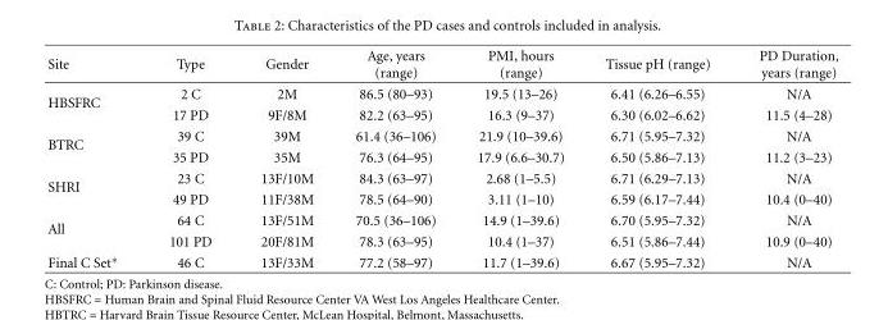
<table><thead><tr><td>Site</td><td>Type</td><td>Gender</td><td>Age, years (range)</td><td>PMI, hours (range)</td><td>Tissue pH (range)</td><td>PD Duration, years (range)</td></tr></thead><tbody><tr><td rowspan="2">HBSFRC</td><td>2 C</td><td>2M</td><td>86.5 (80–93)</td><td>19.5 (13–26)</td><td>6.41 (6.26–6.55)</td><td>N/A</td></tr><tr><td>17 PD</td><td>9F/8M</td><td>82.2 (63–95)</td><td>16.3 (9–37)</td><td>6.30 (6.02–6.62)</td><td>11.5 (4–28)</td></tr><tr><td rowspan="2">BTRC</td><td>39 C</td><td>39M</td><td>61.4 (36–106)</td><td>21.9 (10–39.6)</td><td>6.71 (5.95–7.32)</td><td>N/A</td></tr><tr><td>35 PD</td><td>35M</td><td>76.3 (64–95)</td><td>17.9 (6.6–30.7)</td><td>6.50 (5.86–7.13)</td><td>11.2 (3–23)</td></tr><tr><td rowspan="2">SHRI</td><td>23 C</td><td>13F/10M</td><td>84.3 (63–97)</td><td>2.68 (1–5.5)</td><td>6.71 (6.29–7.13)</td><td>N/A</td></tr><tr><td>49 PD</td><td>11F/38M</td><td>78.5 (64–90)</td><td>3.11 (1–10)</td><td>6.59 (6.17–7.44)</td><td>10.4 (0–40)</td></tr><tr><td rowspan="2">All</td><td>64 C</td><td>13F/51M</td><td>70.5 (36–106)</td><td>14.9 (1–39.6)</td><td>6.70 (5.95–7.32)</td><td>N/A</td></tr><tr><td>101 PD</td><td>20F/81M</td><td>78.3 (63–95)</td><td>10.4 (1–37)</td><td>6.51 (5.86–7.44)</td><td>10.9 (0–40)</td></tr><tr><td>Final C Set∗</td><td>46 C</td><td>13F/33M</td><td>77.2 (58–97)</td><td>11.7 (1–39.6)</td><td>6.67 (5.95–7.32)</td><td>N/A</td></tr></tbody></table>